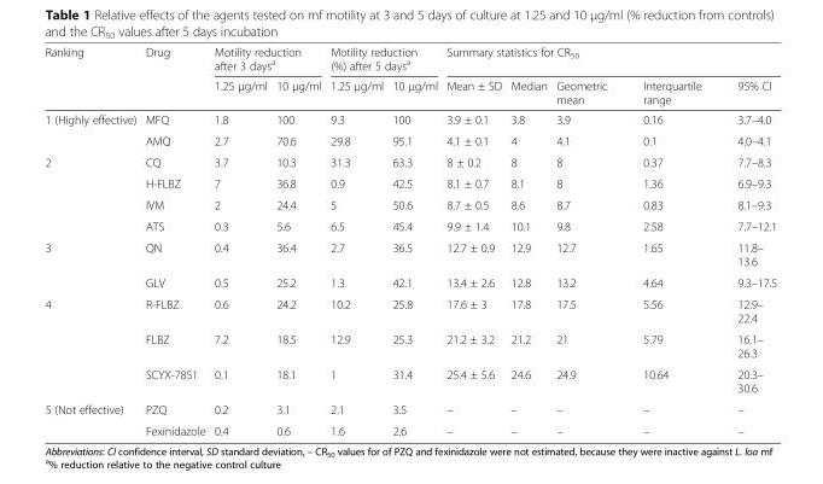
<table><thead><tr><td rowspan="2">Ranking</td><td rowspan="2">Drug</td><td colspan="2">Motility reduction after 3 days<sup>a</sup></td><td colspan="2">Motility reduction (%) after 5 days<sup>a</sup></td><td colspan="5">Summary statistics for CR<sub>50</sub></td></tr><tr><td>1.25 μg/ml</td><td>10 μg/ml</td><td>1.25 μg/ml</td><td>10 μg/ml</td><td>Mean ± SD</td><td>Median</td><td>Geometric mean</td><td>Interquartile range</td><td>95% CI</td></tr></thead><tbody><tr><td rowspan="2">1 (Highly effective)</td><td>MFQ</td><td>1.8</td><td>100</td><td>9.3</td><td>100</td><td>3.9 ± 0.1</td><td>3.8</td><td>3.9</td><td>0.16</td><td>3.7–4.0</td></tr><tr><td>AMQ</td><td>2.7</td><td>70.6</td><td>29.8</td><td>95.1</td><td>4.1 ± 0.1</td><td>4</td><td>4.1</td><td>0.1</td><td>4.0–4.1</td></tr><tr><td rowspan="4">2</td><td>CQ</td><td>3.7</td><td>10.3</td><td>31.3</td><td>63.3</td><td>8 ± 0.2</td><td>8</td><td>8</td><td>0.37</td><td>7.7–8.3</td></tr><tr><td>H-FLBZ</td><td>7</td><td>36.8</td><td>0.9</td><td>42.5</td><td>8.1 ± 0.7</td><td>8.1</td><td>8</td><td>1.36</td><td>6.9–9.3</td></tr><tr><td>IVM</td><td>2</td><td>24.4</td><td>5</td><td>50.6</td><td>8.7 ± 0.5</td><td>8.6</td><td>8.7</td><td>0.83</td><td>8.1–9.3</td></tr><tr><td>ATS</td><td>0.3</td><td>5.6</td><td>6.5</td><td>45.4</td><td>9.9 ± 1.4</td><td>10.1</td><td>9.8</td><td>2.58</td><td>7.7–12.1</td></tr><tr><td rowspan="2">3</td><td>QN</td><td>0.4</td><td>36.4</td><td>2.7</td><td>36.5</td><td>12.7 ± 0.9</td><td>12.9</td><td>12.7</td><td>1.65</td><td>11.8– 13.6</td></tr><tr><td>GLV</td><td>0.5</td><td>25.2</td><td>1.3</td><td>42.1</td><td>13.4 ± 2.6</td><td>12.8</td><td>13.2</td><td>4.64</td><td>9.3–17.5</td></tr><tr><td rowspan="3">4</td><td>R-FLBZ</td><td>0.6</td><td>24.2</td><td>10.2</td><td>25.8</td><td>17.6 ± 3</td><td>17.8</td><td>17.5</td><td>5.56</td><td>12.9– 22.4</td></tr><tr><td>FLBZ</td><td>7.2</td><td>18.5</td><td>12.9</td><td>25.3</td><td>21.2 ± 3.2</td><td>21.2</td><td>21</td><td>5.79</td><td>16.1– 26.3</td></tr><tr><td>SCYX-7851</td><td>0.1</td><td>18.1</td><td>1</td><td>31.4</td><td>25.4 ± 5.6</td><td>24.6</td><td>24.9</td><td>10.64</td><td>20.3– 30.6</td></tr><tr><td rowspan="2">5 (Not effective)</td><td>PZQ</td><td>0.2</td><td>3.1</td><td>2.1</td><td>3.5</td><td>–</td><td>–</td><td>–</td><td>–</td><td>–</td></tr><tr><td>Fexinidazole</td><td>0.4</td><td>0.6</td><td>1.6</td><td>2.6</td><td>–</td><td>–</td><td>–</td><td>–</td><td>–</td></tr></tbody></table>